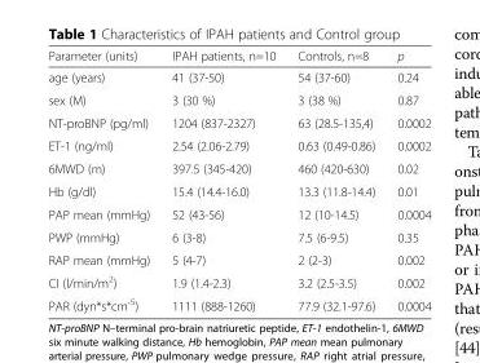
<table><thead><tr><td>Parameter (units)</td><td>IPAH patients, n=10</td><td>Controls, n=8</td><td>p</td></tr></thead><tbody><tr><td>age (years)</td><td>41 (37-50)</td><td>54 (37-60)</td><td>0.24</td></tr><tr><td>sex (M)</td><td>3 (30 %)</td><td>3 (38 %)</td><td>0.87</td></tr><tr><td>NT-proBNP (pg/ml)</td><td>1204 (837-2327)</td><td>63 (28.5-135,4)</td><td>0.0002</td></tr><tr><td>ET-1 (ng/ml)</td><td>2.54 (2.06-2.79)</td><td>0.63 (0.49-0.86)</td><td>0.0002</td></tr><tr><td>6MWD (m)</td><td>397.5 (345-420)</td><td>460 (420-630)</td><td>0.02</td></tr><tr><td>Hb (g/dl)</td><td>15.4 (14.4-16.0)</td><td>13.3 (11.8-14.4)</td><td>0.01</td></tr><tr><td>PAP mean (mmHg)</td><td>52 (43-56)</td><td>12 (10-14.5)</td><td>0.0004</td></tr><tr><td>PWP (mmHg)</td><td>6 (3-8)</td><td>7.5 (6-9.5)</td><td>0.35</td></tr><tr><td>RAP mean (mmHg)</td><td>5 (4-7)</td><td>2 (2-3)</td><td>0.002</td></tr><tr><td>CI (l/min/m<sup>2</sup>)</td><td>1.9 (1.4-2.3)</td><td>3.2 (2.5-3.5)</td><td>0.002</td></tr><tr><td>PAR (dyn*s*cm<sup>-5</sup>)</td><td>1111 (888-1260)</td><td>77.9 (32.1-97.6)</td><td>0.0004</td></tr></tbody></table>